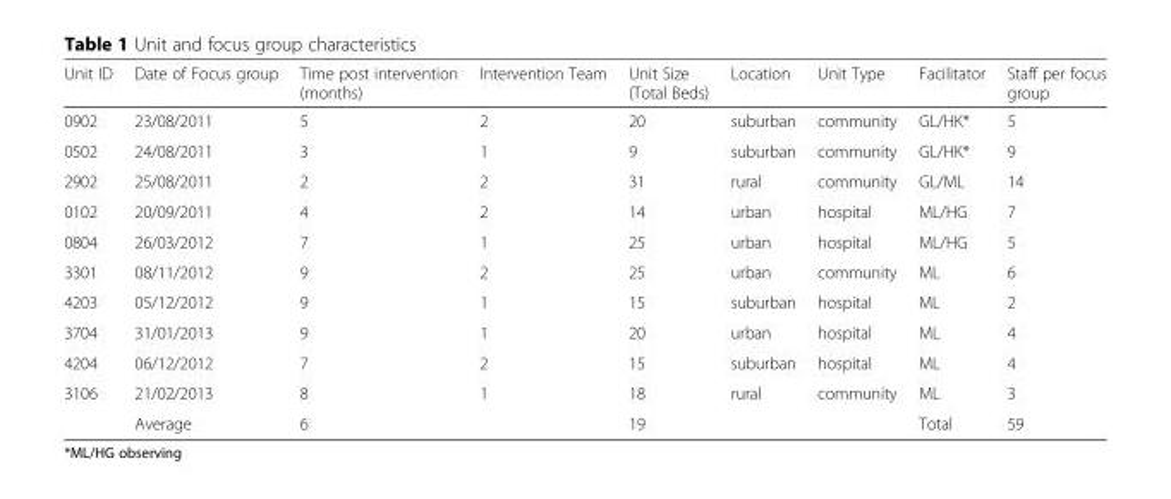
<table><thead><tr><td>Unit ID</td><td>Date of Focus group</td><td>Time post intervention (months)</td><td>Intervention Team</td><td>Unit Size (Total Beds)</td><td>Location</td><td>Unit Type</td><td>Facilitator</td><td>Staff per focus group</td></tr></thead><tbody><tr><td>0902</td><td>23/08/2011</td><td>5</td><td>2</td><td>20</td><td>suburban</td><td>community</td><td>GL/HK*</td><td>5</td></tr><tr><td>0502</td><td>24/08/2011</td><td>3</td><td>1</td><td>9</td><td>suburban</td><td>community</td><td>GL/HK*</td><td>9</td></tr><tr><td>2902</td><td>25/08/2011</td><td>2</td><td>2</td><td>31</td><td>rural</td><td>community</td><td>GL/ML</td><td>14</td></tr><tr><td>0102</td><td>20/09/2011</td><td>4</td><td>2</td><td>14</td><td>urban</td><td>hospital</td><td>ML/HG</td><td>7</td></tr><tr><td>0804</td><td>26/03/2012</td><td>7</td><td>1</td><td>25</td><td>urban</td><td>hospital</td><td>ML/HG</td><td>5</td></tr><tr><td>3301</td><td>08/11/2012</td><td>9</td><td>2</td><td>25</td><td>urban</td><td>community</td><td>ML</td><td>6</td></tr><tr><td>4203</td><td>05/12/2012</td><td>9</td><td>1</td><td>15</td><td>suburban</td><td>hospital</td><td>ML</td><td>2</td></tr><tr><td>3704</td><td>31/01/2013</td><td>9</td><td>1</td><td>20</td><td>urban</td><td>hospital</td><td>ML</td><td>4</td></tr><tr><td>4204</td><td>06/12/2012</td><td>7</td><td>2</td><td>15</td><td>suburban</td><td>hospital</td><td>ML</td><td>4</td></tr><tr><td rowspan="2">3106</td><td>21/02/2013</td><td>8</td><td>1</td><td>18</td><td>rural</td><td>community</td><td>ML</td><td>3</td></tr><tr><td>Average</td><td>6</td><td></td><td>19</td><td></td><td></td><td>Total</td><td>59</td></tr></tbody></table>